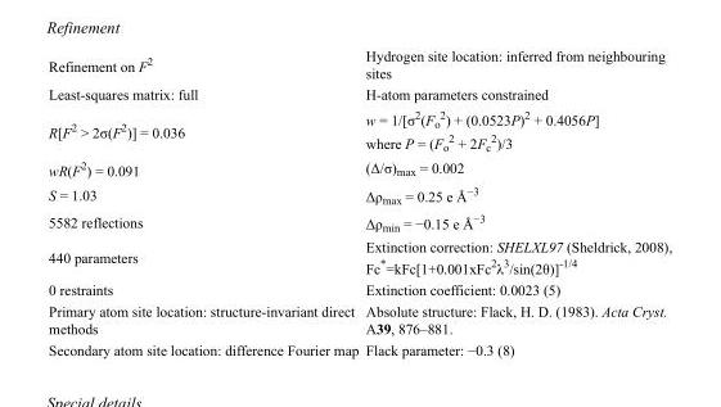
<table><tbody><tr><td>Refinement on F<sup>2</sup></td><td>Hydrogen site location: inferred from neighbouring sites</td></tr><tr><td>Least-squares matrix: full</td><td>H-atom parameters constrained</td></tr><tr><td>R[F<sup>2</sup> &gt; 2σ(F<sup>2</sup>)] = 0.036</td><td>w = 1/[σ<sup>2</sup>(F<sub>o</sub> <sup>2</sup>) + (0.0523P)<sup>2</sup> + 0.4056P] where P = (F<sub>o</sub> <sup>2</sup> + 2F<sub>c</sub> <sup>2</sup>)/3</td></tr><tr><td>wR(F<sup>2</sup>) = 0.091</td><td>(Δ/σ)<sub>max</sub> = 0.002</td></tr><tr><td>S = 1.03</td><td>Δρ<sub>max</sub> = 0.25 e Å<sup>−3</sup></td></tr><tr><td>5582 reflections</td><td>Δρ<sub>min</sub> = −0.15 e Å<sup>−3</sup></td></tr><tr><td>440 parameters</td><td>Extinction correction: SHELXL97 (Sheldrick, 2008), Fc*=kFc[1+0.001xFc<sup>2</sup>λ<sup>3</sup>/sin(2θ)]<sup>-1/4</sup></td></tr><tr><td>0 restraints</td><td>Extinction coefficient: 0.0023 (5)</td></tr><tr><td>Primary atom site location: structure-invariant direct methods</td><td>Absolute structure: Flack, H. D. (1983). Acta Cryst. A39, 876–881.</td></tr><tr><td>Secondary atom site location: difference Fourier map</td><td>Flack parameter: −0.3 (8)</td></tr></tbody></table>